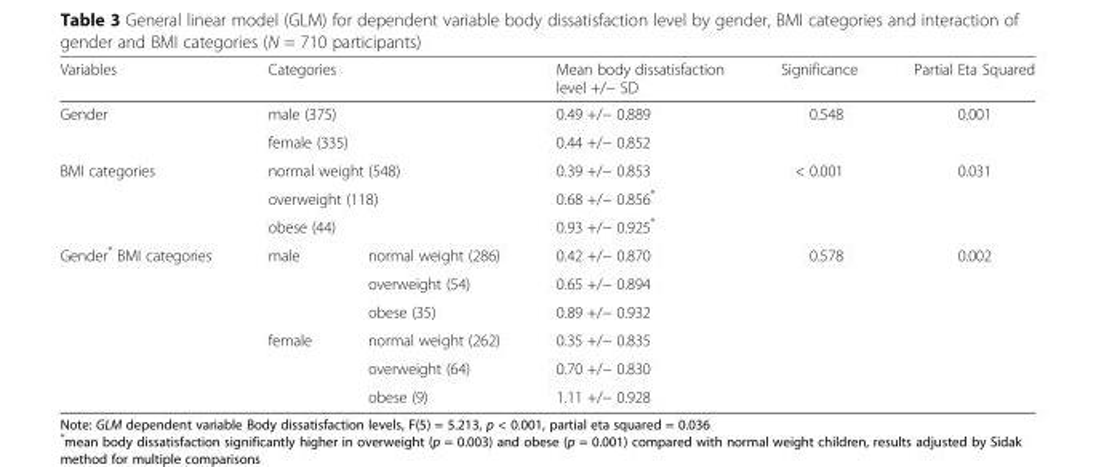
<table><thead><tr><td>Variables</td><td colspan="2">Categories</td><td>Mean body dissatisfaction level +/− SD</td><td>Significance</td><td>Partial Eta Squared</td></tr></thead><tbody><tr><td rowspan="2">Gender</td><td colspan="2">male (375)</td><td>0.49 +/− 0.889</td><td rowspan="2">0.548</td><td rowspan="2">0.001</td></tr><tr><td colspan="2">female (335)</td><td>0.44 +/− 0.852</td></tr><tr><td rowspan="3">BMI categories</td><td colspan="2">normal weight (548)</td><td>0.39 +/− 0.853</td><td rowspan="3">&lt; 0.001</td><td rowspan="3">0.031</td></tr><tr><td colspan="2">overweight (118)</td><td>0.68 +/− 0.856*</td></tr><tr><td colspan="2">obese (44)</td><td>0.93 +/− 0.925*</td></tr><tr><td rowspan="6">Gender* BMI categories</td><td rowspan="3">male</td><td>normal weight (286)</td><td>0.42 +/− 0.870</td><td rowspan="6">0.578</td><td rowspan="6">0.002</td></tr><tr><td>overweight (54)</td><td>0.65 +/− 0.894</td></tr><tr><td>obese (35)</td><td>0.89 +/− 0.932</td></tr><tr><td rowspan="3">female</td><td>normal weight (262)</td><td>0.35 +/− 0.835</td></tr><tr><td>overweight (64)</td><td>0.70 +/− 0.830</td></tr><tr><td>obese (9)</td><td>1.11 +/− 0.928</td></tr></tbody></table>